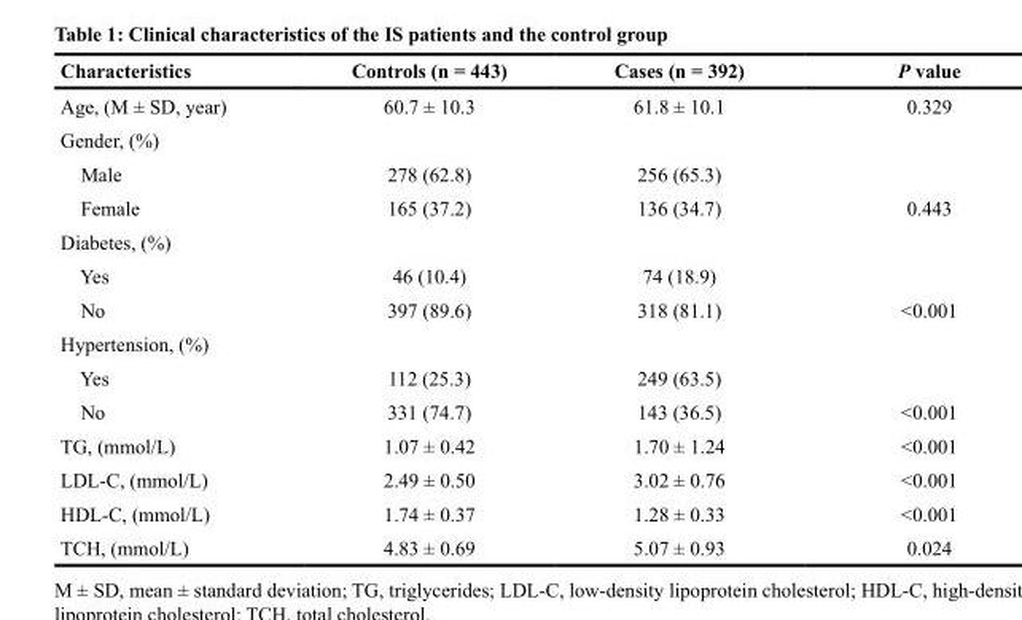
<table><thead><tr><td>Characteristics</td><td>Controls (n = 443)</td><td>Cases (n = 392)</td><td>P value</td></tr></thead><tbody><tr><td>Age, (M ± SD, year)</td><td>60.7 ± 10.3</td><td>61.8 ± 10.1</td><td>0.329</td></tr><tr><td colspan="4">Gender, (%)</td></tr><tr><td>Male</td><td>278 (62.8)</td><td>256 (65.3)</td><td></td></tr><tr><td>Female</td><td>165 (37.2)</td><td>136 (34.7)</td><td>0.443</td></tr><tr><td colspan="4">Diabetes, (%)</td></tr><tr><td>Yes</td><td>46 (10.4)</td><td>74 (18.9)</td><td></td></tr><tr><td>No</td><td>397 (89.6)</td><td>318 (81.1)</td><td>&lt;0.001</td></tr><tr><td colspan="4">Hypertension, (%)</td></tr><tr><td>Yes</td><td>112 (25.3)</td><td>249 (63.5)</td><td></td></tr><tr><td>No</td><td>331 (74.7)</td><td>143 (36.5)</td><td>&lt;0.001</td></tr><tr><td>TG, (mmol/L)</td><td>1.07 ± 0.42</td><td>1.70 ± 1.24</td><td>&lt;0.001</td></tr><tr><td>LDL-C, (mmol/L)</td><td>2.49 ± 0.50</td><td>3.02 ± 0.76</td><td>&lt;0.001</td></tr><tr><td>HDL-C, (mmol/L)</td><td>1.74 ± 0.37</td><td>1.28 ± 0.33</td><td>&lt;0.001</td></tr><tr><td>TCH, (mmol/L)</td><td>4.83 ± 0.69</td><td>5.07 ± 0.93</td><td>0.024</td></tr></tbody></table>